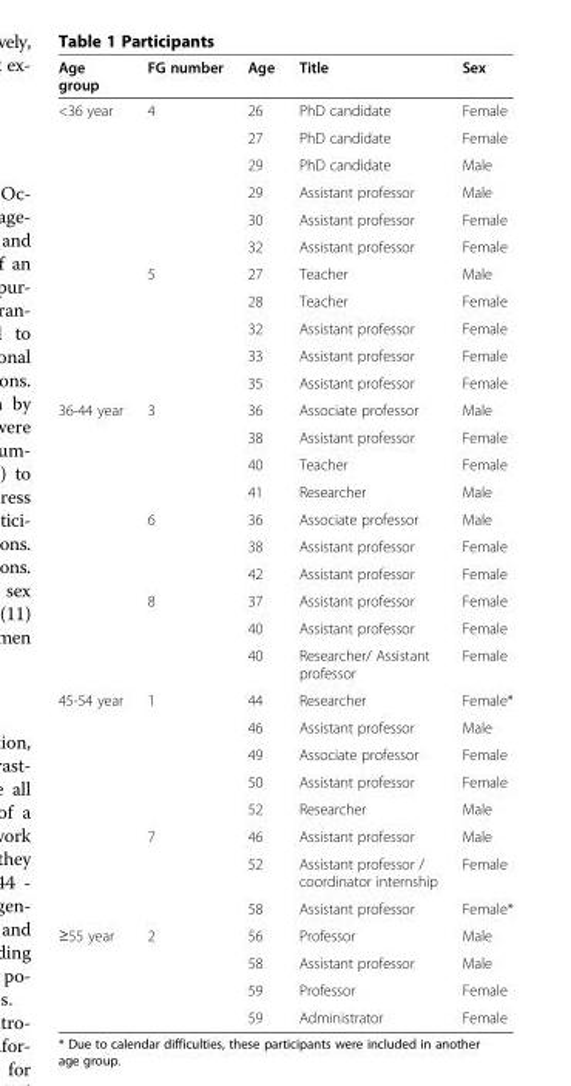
<table><thead><tr><td>Age group</td><td>FG number</td><td>Age</td><td>Title</td><td>Sex</td></tr></thead><tbody><tr><td rowspan="11">&lt;36 year</td><td>4</td><td>26</td><td>PhD candidate</td><td>Female</td></tr><tr><td></td><td>27</td><td>PhD candidate</td><td>Female</td></tr><tr><td></td><td>29</td><td>PhD candidate</td><td>Male</td></tr><tr><td></td><td>29</td><td>Assistant professor</td><td>Male</td></tr><tr><td></td><td>30</td><td>Assistant professor</td><td>Female</td></tr><tr><td></td><td>32</td><td>Assistant professor</td><td>Female</td></tr><tr><td>5</td><td>27</td><td>Teacher</td><td>Male</td></tr><tr><td></td><td>28</td><td>Teacher</td><td>Female</td></tr><tr><td></td><td>32</td><td>Assistant professor</td><td>Female</td></tr><tr><td></td><td>33</td><td>Assistant professor</td><td>Female</td></tr><tr><td></td><td>35</td><td>Assistant professor</td><td>Female</td></tr><tr><td rowspan="10">36-44 year</td><td>3</td><td>36</td><td>Associate professor</td><td>Male</td></tr><tr><td></td><td>38</td><td>Assistant professor</td><td>Female</td></tr><tr><td></td><td>40</td><td>Teacher</td><td>Female</td></tr><tr><td></td><td>41</td><td>Researcher</td><td>Male</td></tr><tr><td>6</td><td>36</td><td>Associate professor</td><td>Male</td></tr><tr><td></td><td>38</td><td>Assistant professor</td><td>Female</td></tr><tr><td></td><td>42</td><td>Assistant professor</td><td>Female</td></tr><tr><td>8</td><td>37</td><td>Assistant professor</td><td>Female</td></tr><tr><td></td><td>40</td><td>Assistant professor</td><td>Female</td></tr><tr><td></td><td>40</td><td>Researcher/ Assistant professor</td><td>Female</td></tr><tr><td rowspan="8">45-54 year</td><td>1</td><td>44</td><td>Researcher</td><td>Female*</td></tr><tr><td></td><td>46</td><td>Assistant professor</td><td>Male</td></tr><tr><td></td><td>49</td><td>Associate professor</td><td>Female</td></tr><tr><td></td><td>50</td><td>Assistant professor</td><td>Female</td></tr><tr><td></td><td>52</td><td>Researcher</td><td>Male</td></tr><tr><td>7</td><td>46</td><td>Assistant professor</td><td>Male</td></tr><tr><td></td><td>52</td><td>Assistant professor / coordinator internship</td><td>Female</td></tr><tr><td></td><td>58</td><td>Assistant professor</td><td>Female*</td></tr><tr><td rowspan="4">≥55 year</td><td>2</td><td>56</td><td>Professor</td><td>Male</td></tr><tr><td></td><td>58</td><td>Assistant professor</td><td>Male</td></tr><tr><td></td><td>59</td><td>Professor</td><td>Female</td></tr><tr><td></td><td>59</td><td>Administrator</td><td>Female</td></tr></tbody></table>